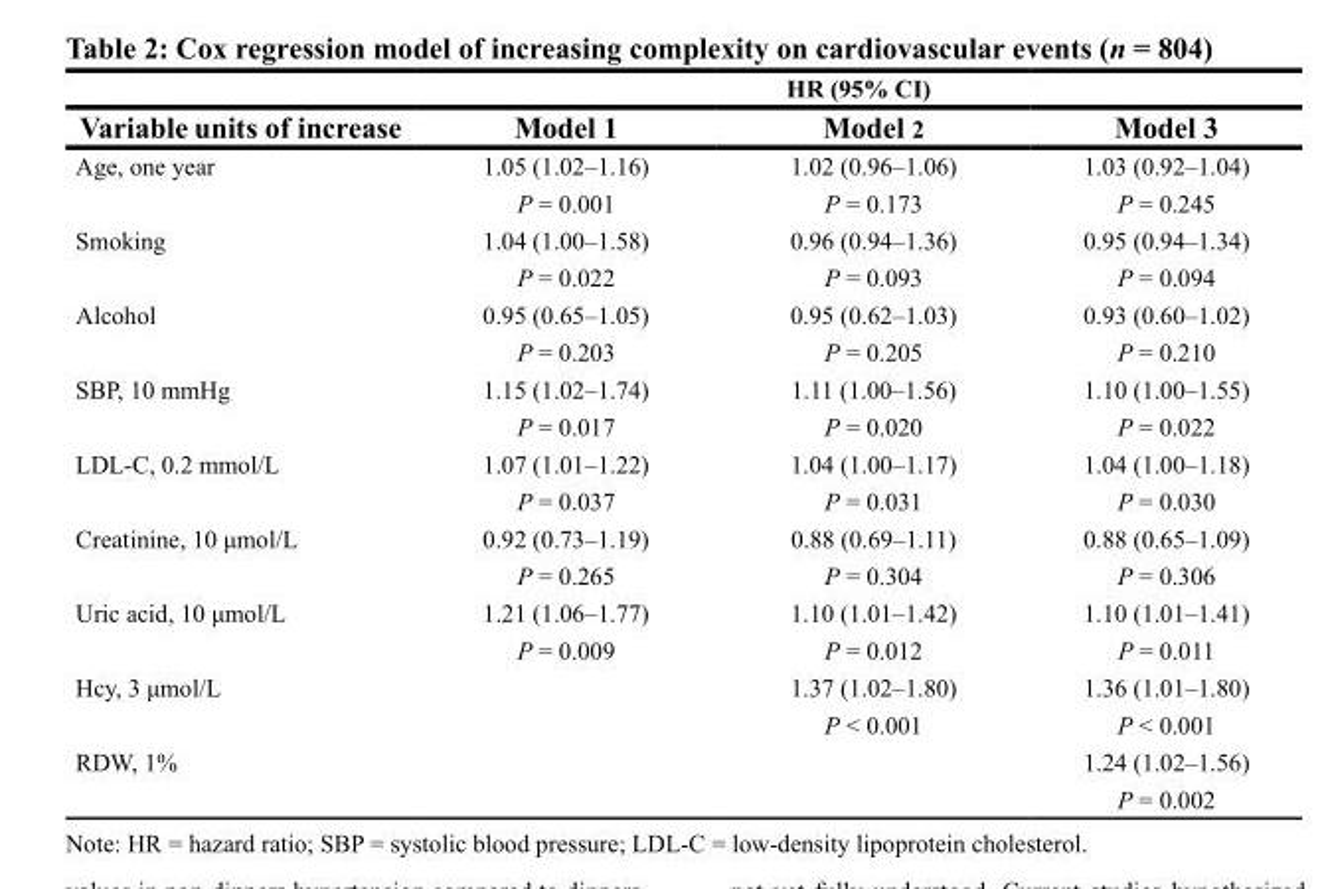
<table><thead><tr><td rowspan="2">Variable units of increase</td><td colspan="3">HR (95% CI)</td></tr><tr><td>Model 1</td><td>Model 2</td><td>Model 3</td></tr></thead><tbody><tr><td rowspan="2">Age, one year</td><td>1.05 (1.02–1.16)</td><td>1.02 (0.96–1.06)</td><td>1.03 (0.92–1.04)</td></tr><tr><td>P = 0.001</td><td>P = 0.173</td><td>P = 0.245</td></tr><tr><td rowspan="2">Smoking</td><td>1.04 (1.00–1.58)</td><td>0.96 (0.94–1.36)</td><td>0.95 (0.94–1.34)</td></tr><tr><td>P = 0.022</td><td>P = 0.093</td><td>P = 0.094</td></tr><tr><td rowspan="2">Alcohol</td><td>0.95 (0.65–1.05)</td><td>0.95 (0.62–1.03)</td><td>0.93 (0.60–1.02)</td></tr><tr><td>P = 0.203</td><td>P = 0.205</td><td>P = 0.210</td></tr><tr><td rowspan="2">SBP, 10 mmHg</td><td>1.15 (1.02–1.74)</td><td>1.11 (1.00–1.56)</td><td>1.10 (1.00–1.55)</td></tr><tr><td>P = 0.017</td><td>P = 0.020</td><td>P = 0.022</td></tr><tr><td rowspan="2">LDL-C, 0.2 mmol/L</td><td>1.07 (1.01–1.22)</td><td>1.04 (1.00–1.17)</td><td>1.04 (1.00–1.18)</td></tr><tr><td>P = 0.037</td><td>P = 0.031</td><td>P = 0.030</td></tr><tr><td rowspan="2">Creatinine, 10 μmol/L</td><td>0.92 (0.73–1.19)</td><td>0.88 (0.69–1.11)</td><td>0.88 (0.65–1.09)</td></tr><tr><td>P = 0.265</td><td>P = 0.304</td><td>P = 0.306</td></tr><tr><td rowspan="2">Uric acid, 10 μmol/L</td><td>1.21 (1.06–1.77)</td><td>1.10 (1.01–1.42)</td><td>1.10 (1.01–1.41)</td></tr><tr><td>P = 0.009</td><td>P = 0.012</td><td>P = 0.011</td></tr><tr><td rowspan="2">Hcy, 3 μmol/L</td><td></td><td>1.37 (1.02–1.80)</td><td>1.36 (1.01–1.80)</td></tr><tr><td></td><td>P &lt; 0.001</td><td>P &lt; 0.001</td></tr><tr><td rowspan="2">RDW, 1%</td><td></td><td></td><td>1.24 (1.02–1.56)</td></tr><tr><td></td><td></td><td>P = 0.002</td></tr></tbody></table>